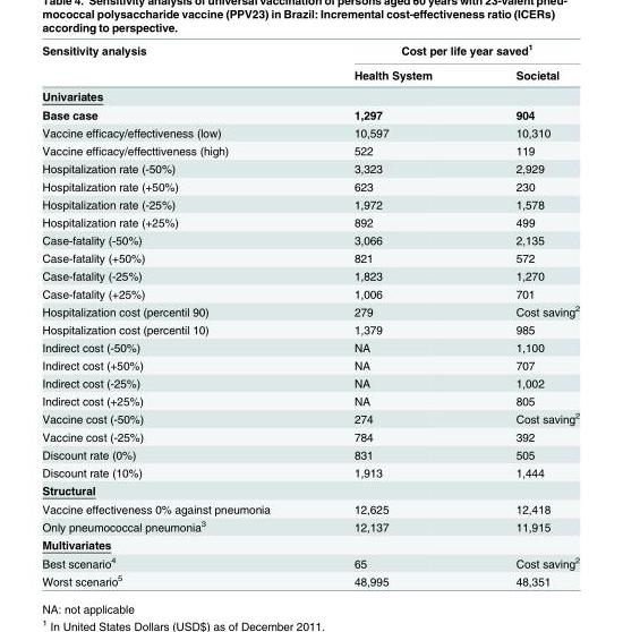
<table><thead><tr><td rowspan="2">Sensitivity analysis</td><td colspan="2">Cost per life year saved<sup>1</sup></td></tr><tr><td>Health System</td><td>Societal</td></tr></thead><tbody><tr><td colspan="3">Univariates</td></tr><tr><td>Base case</td><td>1,297</td><td>904</td></tr><tr><td>Vaccine efficacy/effectiveness (low)</td><td>10,597</td><td>10,310</td></tr><tr><td>Vaccine efficacy/effecttiveness (high)</td><td>522</td><td>119</td></tr><tr><td>Hospitalization rate (-50%)</td><td>3,323</td><td>2,929</td></tr><tr><td>Hospitalization rate (+50%)</td><td>623</td><td>230</td></tr><tr><td>Hospitalization rate (-25%)</td><td>1,972</td><td>1,578</td></tr><tr><td>Hospitalization rate (+25%)</td><td>892</td><td>499</td></tr><tr><td>Case-fatality (-50%)</td><td>3,066</td><td>2,135</td></tr><tr><td>Case-fatality (+50%)</td><td>821</td><td>572</td></tr><tr><td>Case-fatality (-25%)</td><td>1,823</td><td>1,270</td></tr><tr><td>Case-fatality (+25%)</td><td>1,006</td><td>701</td></tr><tr><td>Hospitalization cost (percentil 90)</td><td>279</td><td>Cost saving<sup>2</sup></td></tr><tr><td>Hospitalization cost (percentil 10)</td><td>1,379</td><td>985</td></tr><tr><td>Indirect cost (-50%)</td><td>NA</td><td>1,100</td></tr><tr><td>Indirect cost (+50%)</td><td>NA</td><td>707</td></tr><tr><td>Indirect cost (-25%)</td><td>NA</td><td>1,002</td></tr><tr><td>Indirect cost (+25%)</td><td>NA</td><td>805</td></tr><tr><td>Vaccine cost (-50%)</td><td>274</td><td>Cost saving<sup>2</sup></td></tr><tr><td>Vaccine cost (-25%)</td><td>784</td><td>392</td></tr><tr><td>Discount rate (0%)</td><td>831</td><td>505</td></tr><tr><td>Discount rate (10%)</td><td>1,913</td><td>1,444</td></tr><tr><td colspan="3">Structural</td></tr><tr><td>Vaccine effectiveness 0% against pneumonia</td><td>12,625</td><td>12,418</td></tr><tr><td>Only pneumococcal pneumonia<sup>3</sup></td><td>12,137</td><td>11,915</td></tr><tr><td colspan="3">Multivariates</td></tr><tr><td>Best scenario<sup>4</sup></td><td>65</td><td>Cost saving<sup>2</sup></td></tr><tr><td>Worst scenario<sup>5</sup></td><td>48,995</td><td>48,351</td></tr></tbody></table>